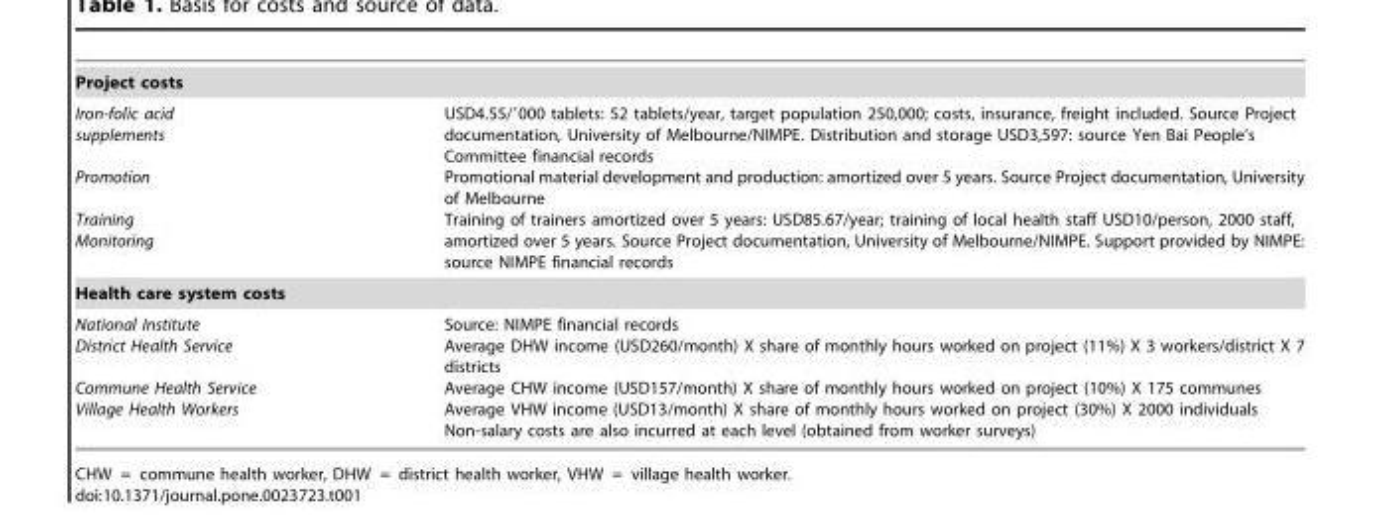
<table><tbody><tr><td colspan="2">Project costs</td></tr><tr><td>Iron-folic acid supplements Promotion Training Monitoring</td><td>USD4.55/′000 tablets: 52 tablets/year, target population 250,000; costs, insurance, freight included. Source Project documentation, University of Melbourne/NIMPE. Distribution and storage USD3,597: source Yen Bai People’s Committee financial records Promotional material development and production: amortized over 5 years. Source Project documentation, University of Melbourne Training of trainers amortized over 5 years: USD85.67/year; training of local health staff USD10/person, 2000 staff, amortized over 5 years. Source Project documentation, University of Melbourne/NIMPE. Support provided by NIMPE: source NIMPE financial records</td></tr><tr><td colspan="2">Health care system costs</td></tr><tr><td>National Institute District Health Service Commune Health Service Village Health Workers</td><td>Source: NIMPE financial records Average DHW income (USD260/month) X share of monthly hours worked on project (11%) X 3 workers/district X 7 districts Average CHW income (USD157/month) X share of monthly hours worked on project (10%) X 175 communes Average VHW income (USD13/month) X share of monthly hours worked on project (30%) X 2000 individuals Non-salary costs are also incurred at each level (obtained from worker surveys)</td></tr></tbody></table>